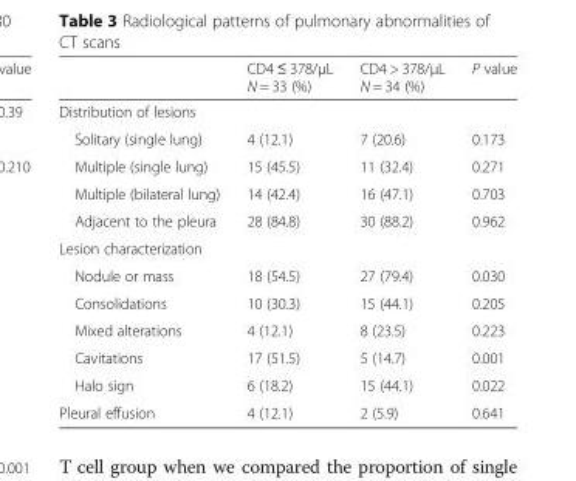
<table><thead><tr><td></td><td>CD4 ≤ 378/μL N = 33 (%)</td><td>CD4 &gt; 378/μL N = 34 (%)</td><td>P value</td></tr></thead><tbody><tr><td colspan="4">Distribution of lesions</td></tr><tr><td>Solitary (single lung)</td><td>4 (12.1)</td><td>7 (20.6)</td><td>0.173</td></tr><tr><td>Multiple (single lung)</td><td>15 (45.5)</td><td>11 (32.4)</td><td>0.271</td></tr><tr><td>Multiple (bilateral lung)</td><td>14 (42.4)</td><td>16 (47.1)</td><td>0.703</td></tr><tr><td>Adjacent to the pleura</td><td>28 (84.8)</td><td>30 (88.2)</td><td>0.962</td></tr><tr><td colspan="4">Lesion characterization</td></tr><tr><td>Nodule or mass</td><td>18 (54.5)</td><td>27 (79.4)</td><td>0.030</td></tr><tr><td>Consolidations</td><td>10 (30.3)</td><td>15 (44.1)</td><td>0.205</td></tr><tr><td>Mixed alterations</td><td>4 (12.1)</td><td>8 (23.5)</td><td>0.223</td></tr><tr><td>Cavitations</td><td>17 (51.5)</td><td>5 (14.7)</td><td>0.001</td></tr><tr><td>Halo sign</td><td>6 (18.2)</td><td>15 (44.1)</td><td>0.022</td></tr><tr><td>Pleural effusion</td><td>4 (12.1)</td><td>2 (5.9)</td><td>0.641</td></tr></tbody></table>